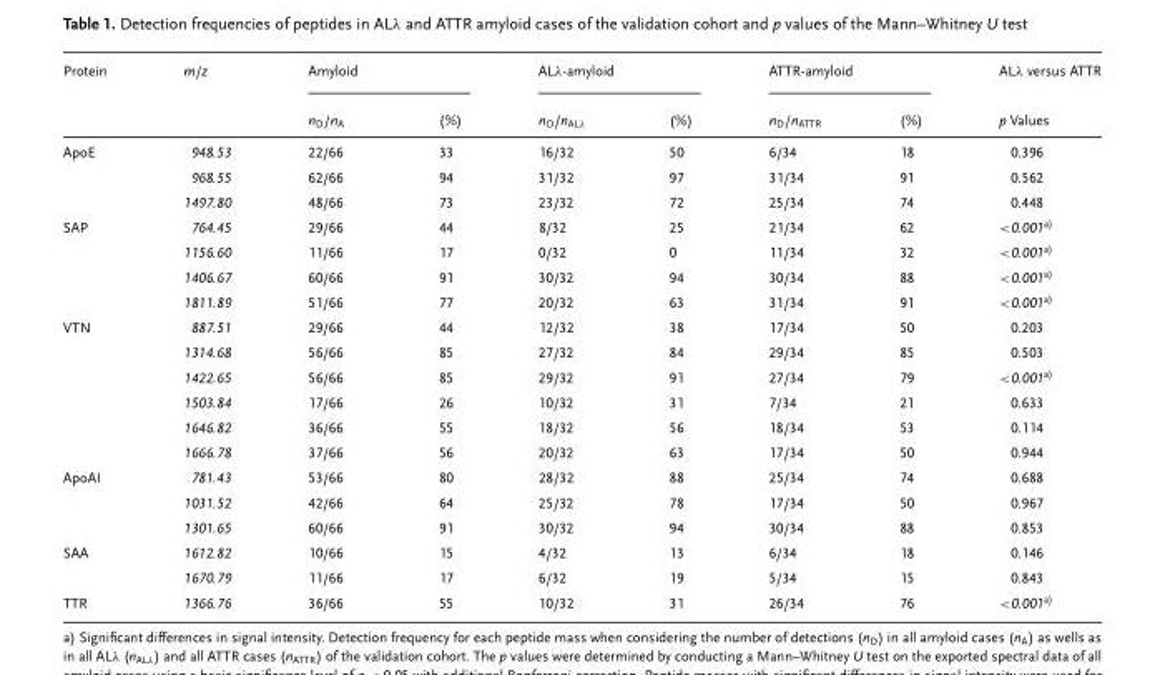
<table><thead><tr><td rowspan="2">Protein</td><td rowspan="2">m/z</td><td colspan="2">Amyloid</td><td colspan="2">ALλ-amyloid</td><td colspan="2">ATTR-amyloid</td><td rowspan="2">ALλ versus ATTR p Values</td></tr><tr><td>n<sub>D</sub>/n<sub>A</sub></td><td>(%)</td><td>n<sub>D</sub>/n<sub>ALλ</sub></td><td>(%)</td><td>n<sub>D</sub>/n<sub>ATTR</sub></td><td>(%)</td></tr></thead><tbody><tr><td rowspan="3">ApoE</td><td>948.53</td><td>22/66</td><td>33</td><td>16/32</td><td>50</td><td>6/34</td><td>18</td><td>0.396</td></tr><tr><td>968.55</td><td>62/66</td><td>94</td><td>31/32</td><td>97</td><td>31/34</td><td>91</td><td>0.562</td></tr><tr><td>1497.80</td><td>48/66</td><td>73</td><td>23/32</td><td>72</td><td>25/34</td><td>74</td><td>0.448</td></tr><tr><td rowspan="4">SAP</td><td>764.45</td><td>29/66</td><td>44</td><td>8/32</td><td>25</td><td>21/34</td><td>62</td><td>&lt;0.001a)</td></tr><tr><td>1156.60</td><td>11/66</td><td>17</td><td>0/32</td><td>0</td><td>11/34</td><td>32</td><td>&lt;0.001a)</td></tr><tr><td>1406.67</td><td>60/66</td><td>91</td><td>30/32</td><td>94</td><td>30/34</td><td>88</td><td>&lt;0.001a)</td></tr><tr><td>1811.89</td><td>51/66</td><td>77</td><td>20/32</td><td>63</td><td>31/34</td><td>91</td><td>&lt;0.001a)</td></tr><tr><td rowspan="6">VTN</td><td>887.51</td><td>29/66</td><td>44</td><td>12/32</td><td>38</td><td>17/34</td><td>50</td><td>0.203</td></tr><tr><td>1314.68</td><td>56/66</td><td>85</td><td>27/32</td><td>84</td><td>29/34</td><td>85</td><td>0.503</td></tr><tr><td>1422.65</td><td>56/66</td><td>85</td><td>29/32</td><td>91</td><td>27/34</td><td>79</td><td>&lt;0.001a)</td></tr><tr><td>1503.84</td><td>17/66</td><td>26</td><td>10/32</td><td>31</td><td>7/34</td><td>21</td><td>0.633</td></tr><tr><td>1646.82</td><td>36/66</td><td>55</td><td>18/32</td><td>56</td><td>18/34</td><td>53</td><td>0.114</td></tr><tr><td>1666.78</td><td>37/66</td><td>56</td><td>20/32</td><td>63</td><td>17/34</td><td>50</td><td>0.944</td></tr><tr><td rowspan="3">ApoAI</td><td>781.43</td><td>53/66</td><td>80</td><td>28/32</td><td>88</td><td>25/34</td><td>74</td><td>0.688</td></tr><tr><td>1031.52</td><td>42/66</td><td>64</td><td>25/32</td><td>78</td><td>17/34</td><td>50</td><td>0.967</td></tr><tr><td>1301.65</td><td>60/66</td><td>91</td><td>30/32</td><td>94</td><td>30/34</td><td>88</td><td>0.853</td></tr><tr><td rowspan="2">SAA</td><td>1612.82</td><td>10/66</td><td>15</td><td>4/32</td><td>13</td><td>6/34</td><td>18</td><td>0.146</td></tr><tr><td>1670.79</td><td>11/66</td><td>17</td><td>6/32</td><td>19</td><td>5/34</td><td>15</td><td>0.843</td></tr><tr><td>TTR</td><td>1366.76</td><td>36/66</td><td>55</td><td>10/32</td><td>31</td><td>26/34</td><td>76</td><td>&lt;0.001a)</td></tr></tbody></table>